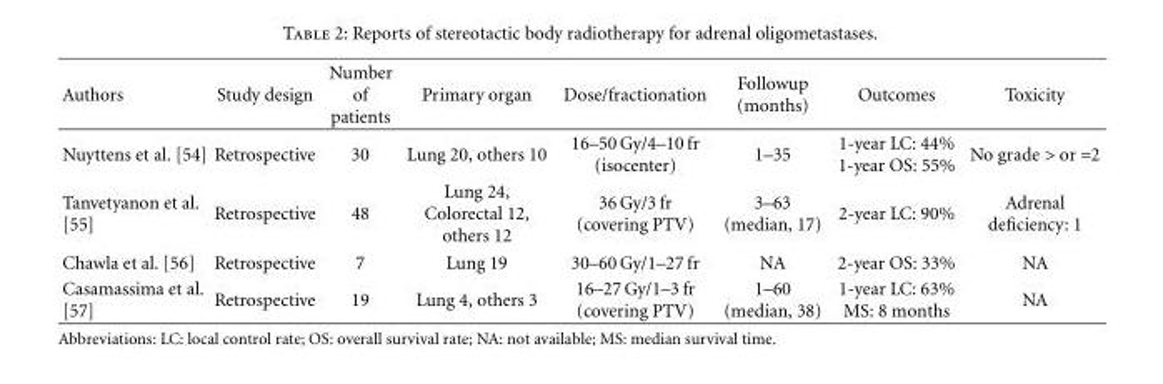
<table><thead><tr><td>Authors</td><td>Study design</td><td>Number of patients</td><td>Primary organ</td><td>Dose/fractionation</td><td>Followup (months)</td><td>Outcomes</td><td>Toxicity</td></tr></thead><tbody><tr><td>Nuyttens et al. [54]</td><td>Retrospective</td><td>30</td><td>Lung 20, others 10</td><td>16–50 Gy/4–10 fr (isocenter)</td><td>1–35</td><td>1-year LC: 44% 1-year OS: 55%</td><td>No grade &gt; or =2</td></tr><tr><td>Tanvetyanon et al. [55]</td><td>Retrospective</td><td>48</td><td>Lung 24, Colorectal 12, others 12</td><td>36 Gy/3 fr (covering PTV)</td><td>3–63 (median, 17)</td><td>2-year LC: 90%</td><td>Adrenal deficiency: 1</td></tr><tr><td>Chawla et al. [56]</td><td>Retrospective</td><td>7</td><td>Lung 19</td><td>30–60 Gy/1–27 fr</td><td>NA</td><td>2-year OS: 33%</td><td>NA</td></tr><tr><td>Casamassima et al. [57]</td><td>Retrospective</td><td>19</td><td>Lung 4, others 3</td><td>16–27 Gy/1–3 fr (covering PTV)</td><td>1–60 (median, 38)</td><td>1-year LC: 63% MS: 8 months</td><td>NA</td></tr></tbody></table>